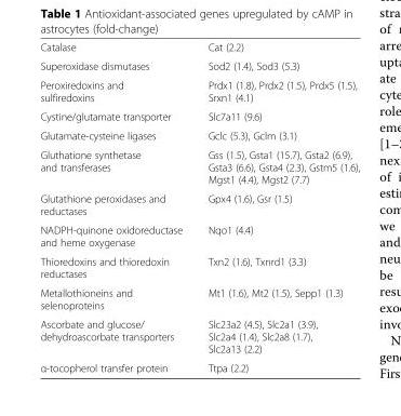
<table><tbody><tr><td>Catalase</td><td>Cat (2.2)</td></tr><tr><td>Superoxidase dismutases</td><td>Sod2 (1.4), Sod3 (5.3)</td></tr><tr><td>Peroxiredoxins and sulfiredoxins</td><td>Prdx1 (1.8), Prdx2 (1.5), Prdx5 (1.5), Srxn1 (4.1)</td></tr><tr><td>Cystine/glutamate transporter</td><td>Slc7a11 (9.6)</td></tr><tr><td>Glutamate-cysteine ligases</td><td>Gclc (5.3), Gclm (3.1)</td></tr><tr><td>Gluthatione synthetase and transferases</td><td>Gss (1.5), Gsta1 (15.7), Gsta2 (6.9), Gsta3 (6.6), Gsta4 (2.3), Gstm5 (1.6), Mgst1 (4.4), Mgst2 (7.7)</td></tr><tr><td>Glutathione peroxidases and reductases</td><td>Gpx4 (1.6), Gsr (1.5)</td></tr><tr><td>NADPH-quinone oxidoreductase and heme oxygenase</td><td>Nqo1 (4.4)</td></tr><tr><td>Thioredoxins and thioredoxin reductases</td><td>Txn2 (1.6), Txnrd1 (3.3)</td></tr><tr><td>Metallothioneins and selenoproteins</td><td>Mt1 (1.6), Mt2 (1.5), Sepp1 (1.3)</td></tr><tr><td>Ascorbate and glucose/ dehydroascorbate transporters</td><td>Slc23a2 (4.5), Slc2a1 (3.9), Slc2a4 (1.4), Slc2a8 (1.7), Slc2a13 (2.2)</td></tr><tr><td>α-tocopherol transfer protein</td><td>Ttpa (2.2)</td></tr></tbody></table>